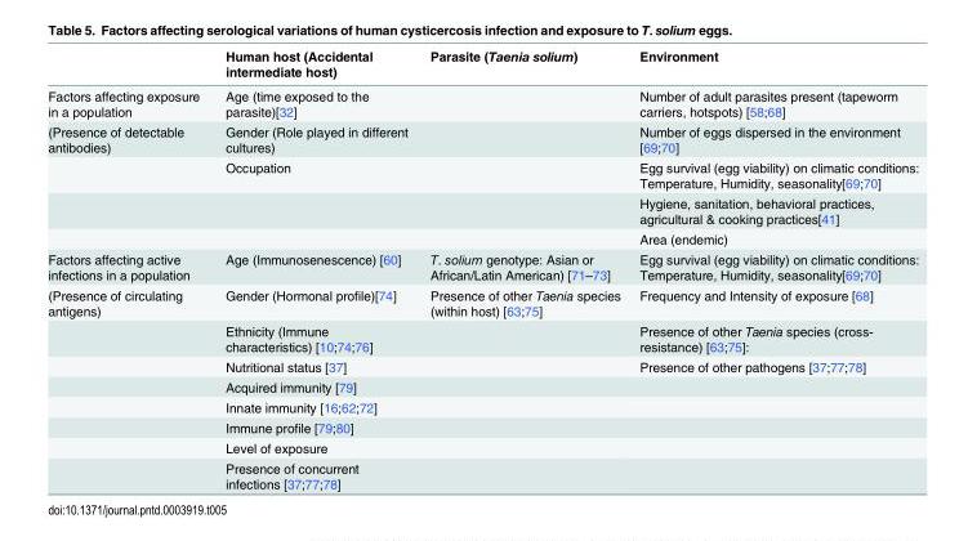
<table><thead><tr><td></td><td>Human host (Accidental intermediate host)</td><td>Parasite (Taenia solium)</td><td>Environment</td></tr></thead><tbody><tr><td>Factors affecting exposure in a population</td><td>Age (time exposed to the parasite)[32]</td><td></td><td>Number of adult parasites present (tapeworm carriers, hotspots) [58;68]</td></tr><tr><td rowspan="4">(Presence of detectable antibodies)</td><td>Gender (Role played in different cultures)</td><td></td><td>Number of eggs dispersed in the environment [69;70]</td></tr><tr><td>Occupation</td><td></td><td>Egg survival (egg viability) on climatic conditions: Temperature, Humidity, seasonality[69;70]</td></tr><tr><td></td><td></td><td>Hygiene, sanitation, behavioral practices, agricultural &amp; cooking practices[41]</td></tr><tr><td></td><td></td><td>Area (endemic)</td></tr><tr><td>Factors affecting active infections in a population</td><td>Age (Immunosenescence) [60]</td><td>T. solium genotype: Asian or African/Latin American) [71–73]</td><td>Egg survival (egg viability) on climatic conditions: Temperature, Humidity, seasonality[69;70]</td></tr><tr><td rowspan="8">(Presence of circulating antigens)</td><td>Gender (Hormonal profile)[74]</td><td>Presence of other Taenia species (within host) [63;75]</td><td>Frequency and Intensity of exposure [68]</td></tr><tr><td>Ethnicity (Immune characteristics) [10;74;76]</td><td></td><td>Presence of other Taenia species (cross- resistance) [63;75]:</td></tr><tr><td>Nutritional status [37]</td><td></td><td>Presence of other pathogens [37;77;78]</td></tr><tr><td>Acquired immunity [79]</td><td></td><td></td></tr><tr><td>Innate immunity [16;62;72]</td><td></td><td></td></tr><tr><td>Immune profile [79;80]</td><td></td><td></td></tr><tr><td>Level of exposure</td><td></td><td></td></tr><tr><td>Presence of concurrent infections [37;77;78]</td><td></td><td></td></tr></tbody></table>